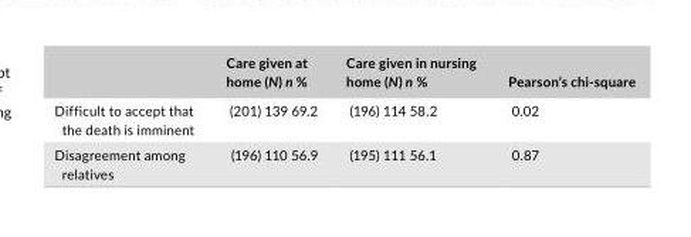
<table><thead><tr><td></td><td>Care given at home (N) n %</td><td>Care given in nursing home (N) n %</td><td>Pearson’s chi- square</td></tr></thead><tbody><tr><td>Difficult to accept that the death is imminent</td><td>(201) 139 69.2</td><td>(196) 114 58.2</td><td>0.02</td></tr><tr><td>Disagreement among relatives</td><td>(196) 110 56.9</td><td>(195) 111 56.1</td><td>0.87</td></tr></tbody></table>